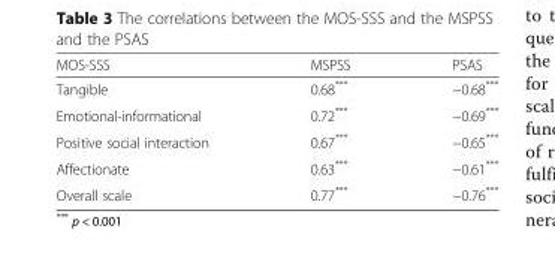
<table><thead><tr><td>MOS-SSS</td><td>MSPSS</td><td>PSAS</td></tr></thead><tbody><tr><td>Tangible</td><td>0.68***</td><td>−0.68***</td></tr><tr><td>Emotional-informational</td><td>0.72***</td><td>−0.69***</td></tr><tr><td>Positive social interaction</td><td>0.67***</td><td>−0.65***</td></tr><tr><td>Affectionate</td><td>0.63***</td><td>−0.61***</td></tr><tr><td>Overall scale</td><td>0.77***</td><td>−0.76***</td></tr></tbody></table>